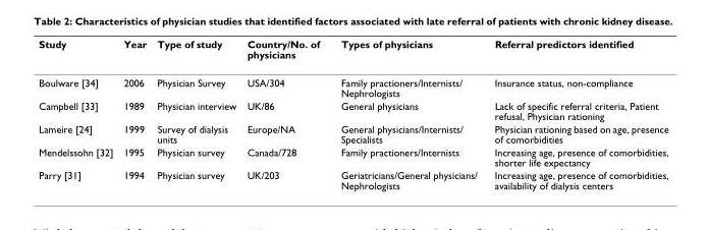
<table><thead><tr><td>Study</td><td>Year</td><td>Type of study</td><td>Country/No. of physicians</td><td>Types of physicians</td><td>Referral predictors identified</td></tr></thead><tbody><tr><td>Boulware [34]</td><td>2006</td><td>Physician Survey</td><td>USA/304</td><td>Family practioners/Internists/ Nephrologists</td><td>Insurance status, non-compliance</td></tr><tr><td>Campbell [33]</td><td>1989</td><td>Physician interview</td><td>UK/86</td><td>General physicians</td><td>Lack of specific referral criteria, Patient refusal, Physician rationing</td></tr><tr><td>Lameire [24]</td><td>1999</td><td>Survey of dialysis units</td><td>Europe/NA</td><td>General physicians/Internists/ Specialists</td><td>Physician rationing based on age, presence of comorbidities</td></tr><tr><td>Mendelssohn [32]</td><td>1995</td><td>Physician survey</td><td>Canada/728</td><td>Family practioners/Internists</td><td>Increasing age, presence of comorbidities, shorter life expectancy</td></tr><tr><td>Parry [31]</td><td>1994</td><td>Physician survey</td><td>UK/203</td><td>Geriatricians/General physicians/ Nephrologists</td><td>Increasing age, presence of comorbidities, availability of dialysis centers</td></tr></tbody></table>